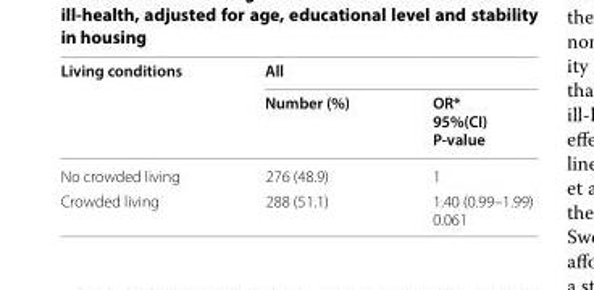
<table><thead><tr><td rowspan="2">Living conditions</td><td colspan="2">All</td></tr><tr><td>Number (%)</td><td>OR* 95%(CI) P-value</td></tr></thead><tbody><tr><td>No crowded living</td><td>276 (48.9)</td><td>1</td></tr><tr><td>Crowded living</td><td>288 (51.1)</td><td>1.40 (0.99–1.99) 0.061</td></tr></tbody></table>